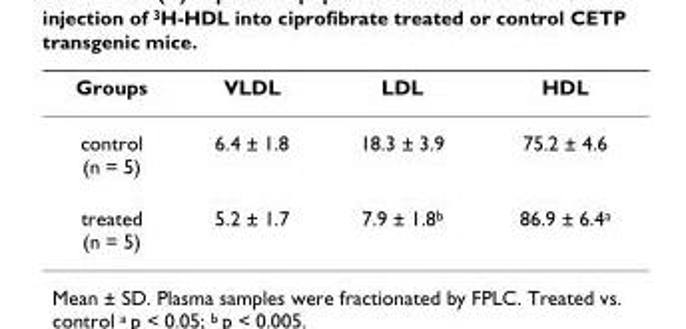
<table><thead><tr><td>Groups</td><td>VLDL</td><td>LDL</td><td>HDL</td></tr></thead><tbody><tr><td>control (n = 5)</td><td>6.4 ± 1.8</td><td>18.3 ± 3.9</td><td>75.2 ± 4.6</td></tr><tr><td>treated (n = 5)</td><td>5.2 ± 1.7</td><td>7.9 ± 1.8<sup>b</sup></td><td>86.9 ± 6.4<sup>a</sup></td></tr></tbody></table>